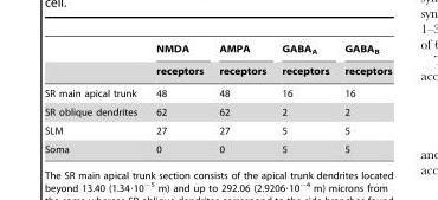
<table><thead><tr><td rowspan="2"></td><td rowspan="2">NMDA receptors</td><td rowspan="2">AMPA receptors</td><td rowspan="2">GABA<sub>A</sub> receptors</td><td rowspan="2">GABA<sub>B</sub> receptors</td></tr><tr></tr></thead><tbody><tr><td>SR main apical trunk</td><td>48</td><td>48</td><td>16</td><td>16</td></tr><tr><td>SR oblique dendrites</td><td>62</td><td>62</td><td>2</td><td>2</td></tr><tr><td>SLM</td><td>27</td><td>27</td><td>5</td><td>5</td></tr><tr><td>Soma</td><td>0</td><td>0</td><td>5</td><td>5</td></tr></tbody></table>